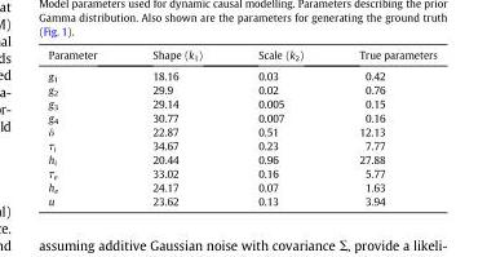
<table><thead><tr><td>Parameter</td><td>Shape (k<sub>1</sub>)</td><td>Scale (k<sub>2</sub>)</td><td>True parameters</td></tr></thead><tbody><tr><td>g<sub>1</sub></td><td>18.16</td><td>0.03</td><td>0.42</td></tr><tr><td>g<sub>2</sub></td><td>29.9</td><td>0.02</td><td>0.76</td></tr><tr><td>g<sub>3</sub></td><td>29.14</td><td>0.005</td><td>0.15</td></tr><tr><td>g<sub>4</sub></td><td>30.77</td><td>0.007</td><td>0.16</td></tr><tr><td>δ</td><td>22.87</td><td>0.51</td><td>12.13</td></tr><tr><td>τ<sub>i</sub></td><td>34.67</td><td>0.23</td><td>7.77</td></tr><tr><td>h<sub>i</sub></td><td>20.44</td><td>0.96</td><td>27.88</td></tr><tr><td>τ<sub>e</sub></td><td>33.02</td><td>0.16</td><td>5.77</td></tr><tr><td>h<sub>e</sub></td><td>24.17</td><td>0.07</td><td>1.63</td></tr><tr><td>u</td><td>23.62</td><td>0.13</td><td>3.94</td></tr></tbody></table>